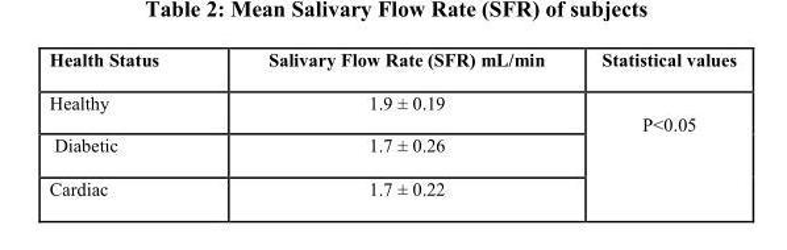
<table><thead><tr><td>Health Status</td><td>Salivary Flow Rate (SFR) mL/min</td><td>Statistical values</td></tr></thead><tbody><tr><td>Healthy</td><td>1.9 ± 0.19</td><td rowspan="3">P&lt;0.05</td></tr><tr><td>Diabetic</td><td>1.7 ± 0.26</td></tr><tr><td>Cardiac</td><td>1.7 ± 0.22</td></tr></tbody></table>